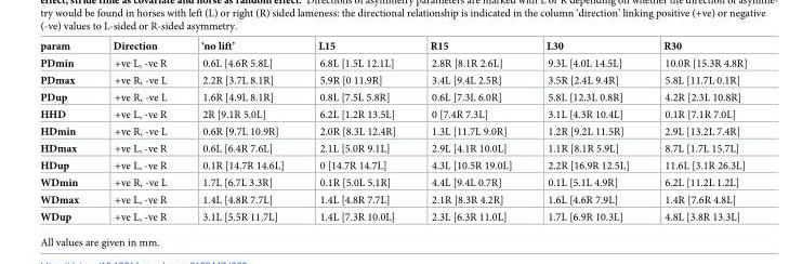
<table><thead><tr><td>param</td><td>Direction</td><td>‘no lift’</td><td>L15</td><td>R15</td><td>L30</td><td>R30</td></tr></thead><tbody><tr><td>PDmin</td><td>+ve L, -ve R</td><td>0.6L [4.6R 5.8L]</td><td>6.8L [1.5L 12.1L]</td><td>2.8R [8.1R 2.6L]</td><td>9.3L [4.0L 14.5L]</td><td>10.0R [15.3R 4.8R]</td></tr><tr><td>PDmax</td><td>+ve R, -ve L</td><td>2.2R [3.7L 8.1R]</td><td>5.9R [0 11.9R]</td><td>3.4L [9.4L 2.5R]</td><td>3.5R [2.4L 9.4R]</td><td>5.8L [11.7L 0.1R]</td></tr><tr><td>PDup</td><td>+ve R, -ve L</td><td>1.6R [4.9L 8.1R]</td><td>0.8L [7.5L 5.8R]</td><td>0.6L [7.3L 6.0R]</td><td>5.8L [12.3L 0.8R]</td><td>4.2R [2.3L 10.8R]</td></tr><tr><td>HHD</td><td>+ve L, -ve R</td><td>2R [9.1R 5.0L]</td><td>6.2L [1.2R 13.5L]</td><td>0 [7.4R 7.3L]</td><td>3.1L [4.3R 10.4L]</td><td>0.1R [7.1R 7.0L]</td></tr><tr><td>HDmin</td><td>+ve R, -ve L</td><td>0.6R [9.7L 10.9R]</td><td>2.0R [8.3L 12.4R]</td><td>1.3L [11.7L 9.0R]</td><td>1.2R [9.2L 11.5R]</td><td>2.9L [13.2L 7.4R]</td></tr><tr><td>HDmax</td><td>+ve L, -ve R</td><td>0.6L [6.4R 7.6L]</td><td>2.1L [5.0R 9.1L]</td><td>2.9L [4.1R 10.0L]</td><td>1.1R [8.1R 5.9L]</td><td>8.7L [1.7L 15.7L]</td></tr><tr><td>HDup</td><td>+ve L, -ve R</td><td>0.1R [14.7R 14.6L]</td><td>0 [14.7R 14.7L]</td><td>4.3L [10.5R 19.0L]</td><td>2.2R [16.9R 12.5L]</td><td>11.6L [3.1R 26.3L]</td></tr><tr><td>WDmin</td><td>+ve R, -ve L</td><td>1.7L [6.7L 3.3R]</td><td>0.1R [5.0L 5.1R]</td><td>4.4L [9.4L 0.7R]</td><td>0.1L [5.1L 4.9R]</td><td>6.2L [11.2L 1.2L]</td></tr><tr><td>WDmax</td><td>+ve L, -ve R</td><td>1.4L [4.8R 7.7L]</td><td>1.4L [4.8R 7.7L]</td><td>2.1R [8.3R 4.2R]</td><td>1.6L [4.6R 7.9L]</td><td>1.4R [7.6R 4.8L]</td></tr><tr><td>WDup</td><td>+ve L, -ve R</td><td>3.1L [5.5R 11.7L]</td><td>1.4L [7.3R 10.0L]</td><td>2.3L [6.3R 11.0L]</td><td>1.7L [6.9R 10.3L]</td><td>4.8L [3.8R 13.3L]</td></tr></tbody></table>